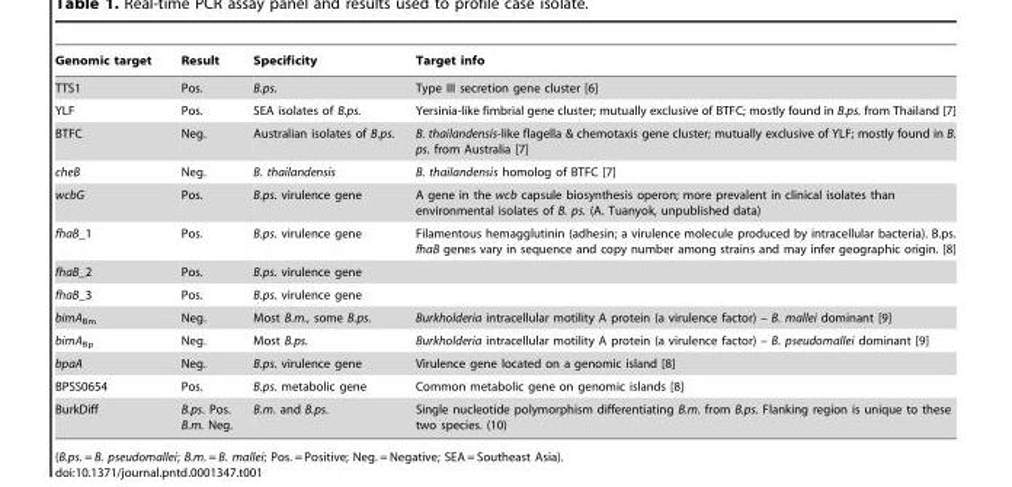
<table><thead><tr><td>Genomic target</td><td>Result</td><td>Specificity</td><td>Target info</td></tr></thead><tbody><tr><td>TTS1</td><td>Pos.</td><td>B.ps.</td><td>Type III secretion gene cluster [6]</td></tr><tr><td>YLF</td><td>Pos.</td><td>SEA isolates of B.ps.</td><td>Yersinia-like fimbrial gene cluster; mutually exclusive of BTFC; mostly found in B.ps. from Thailand [7]</td></tr><tr><td>BTFC</td><td>Neg.</td><td>Australian isolates of B.ps.</td><td>B. thailandensis-like flagella &amp; chemotaxis gene cluster; mutually exclusive of YLF; mostly found in B. ps. from Australia [7]</td></tr><tr><td>cheB</td><td>Neg.</td><td>B. thailandensis</td><td>B. thailandensis homolog of BTFC [7]</td></tr><tr><td>wcbG</td><td>Pos.</td><td>B.ps. virulence gene</td><td>A gene in the wcb capsule biosynthesis operon; more prevalent in clinical isolates than environmental isolates of B. ps. (A. Tuanyok, unpublished data)</td></tr><tr><td>fhaB_1</td><td>Pos.</td><td>B.ps. virulence gene</td><td>Filamentous hemagglutinin (adhesin; a virulence molecule produced by intracellular bacteria). B.ps. fhaB genes vary in sequence and copy number among strains and may infer geographic origin. [8]</td></tr><tr><td>fhaB_2</td><td>Pos.</td><td>B.ps. virulence gene</td><td></td></tr><tr><td>fhaB_3</td><td>Pos.</td><td>B.ps. virulence gene</td><td></td></tr><tr><td>bimA<sub>Bm</sub></td><td>Neg.</td><td>Most B.m., some B.ps.</td><td>Burkholderia intracellular motility A protein (a virulence factor) – B. mallei dominant [9]</td></tr><tr><td>bimA<sub>Bp</sub></td><td>Neg.</td><td>Most B.ps.</td><td>Burkholderia intracellular motility A protein (a virulence factor) – B. pseudomallei dominant [9]</td></tr><tr><td>bpaA</td><td>Neg.</td><td>B.ps. virulence gene</td><td>Virulence gene located on a genomic island [8]</td></tr><tr><td>BPSS0654</td><td>Pos.</td><td>B.ps. metabolic gene</td><td>Common metabolic gene on genomic islands [8]</td></tr><tr><td>BurkDiff</td><td>B.ps. Pos. B.m. Neg.</td><td>B.m. and B.ps.</td><td>Single nucleotide polymorphism differentiating B.m. from B.ps. Flanking region is unique to these two species. (10)</td></tr></tbody></table>